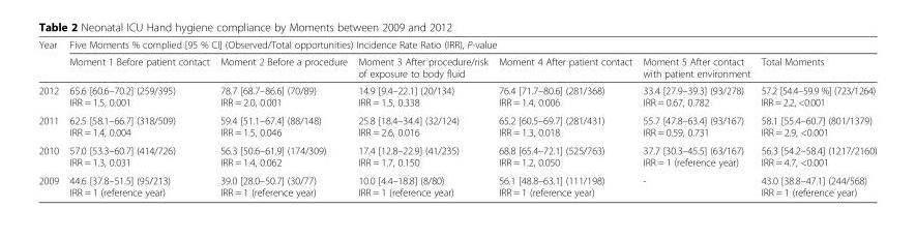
<table><thead><tr><td rowspan="2">Year</td><td colspan="6">Five Moments % complied [95 % CI] (Observed/Total opportunities) Incidence Rate Ratio (IRR), P-value</td></tr><tr><td>Moment 1 Before patient contact</td><td>Moment 2 Before a procedure</td><td>Moment 3 After procedure/risk of exposure to body fluid</td><td>Moment 4 After patient contact</td><td>Moment 5 After contact with patient environment</td><td>Total Moments</td></tr></thead><tbody><tr><td>2012</td><td>65.6 [60.6–70.2] (259/395) IRR = 1.5, 0.001</td><td>78.7 [68.7–86.6] (70/89) IRR = 2.0, 0.001</td><td>14.9 [9.4–22.1] (20/134) IRR = 1.5, 0.338</td><td>76.4 [71.7–80.6] (281/368) IRR = 1.4, 0.006</td><td>33.4 [27.9–39.3] (93/278) IRR = 0.67, 0.782</td><td>57.2 [54.4–59.9 %] (723/1264) IRR = 2.2, &lt;0.001</td></tr><tr><td>2011</td><td>62.5 [58.1–66.7] (318/509) IRR = 1.4, 0.004</td><td>59.4 [51.1–67.4] (88/148) IRR = 1.5, 0.046</td><td>25.8 [18.4–34.4] (32/124) IRR = 2.6, 0.016</td><td>65.2 [60.5–69.7] (281/431) IRR = 1.3, 0.018</td><td>55.7 [47.8–63.4] (93/167) IRR = 0.59, 0.731</td><td>58.1 [55.4–60.7] (801/1379) IRR = 2.9, &lt;0.001</td></tr><tr><td>2010</td><td>57.0 [53.3–60.7] (414/726) IRR = 1.3, 0.031</td><td>56.3 [50.6–61.9] (174/309) IRR = 1.4, 0.062</td><td>17.4 [12.8–22.9] (41/235) IRR = 1.7, 0.150</td><td>68.8 [65.4–72.1] (525/763) IRR = 1.2, 0.050</td><td>37.7 [30.3–45.5] (63/167) IRR = 1 (reference year)</td><td>56.3 [54.2–58.4] (1217/2160) IRR = 4.7, &lt;0.001</td></tr><tr><td>2009</td><td>44.6 [37.8–51.5] (95/213) IRR = 1 (reference year)</td><td>39.0 [28.0–50.7] (30/77) IRR = 1 (reference year)</td><td>10.0 [4.4–18.8] (8/80) IRR = 1 (reference year)</td><td>56.1 [48.8–63.1] (111/198) IRR = 1 (reference year)</td><td>-</td><td>43.0 [38.8–47.1] (244/568) IRR = 1 (reference year)</td></tr></tbody></table>